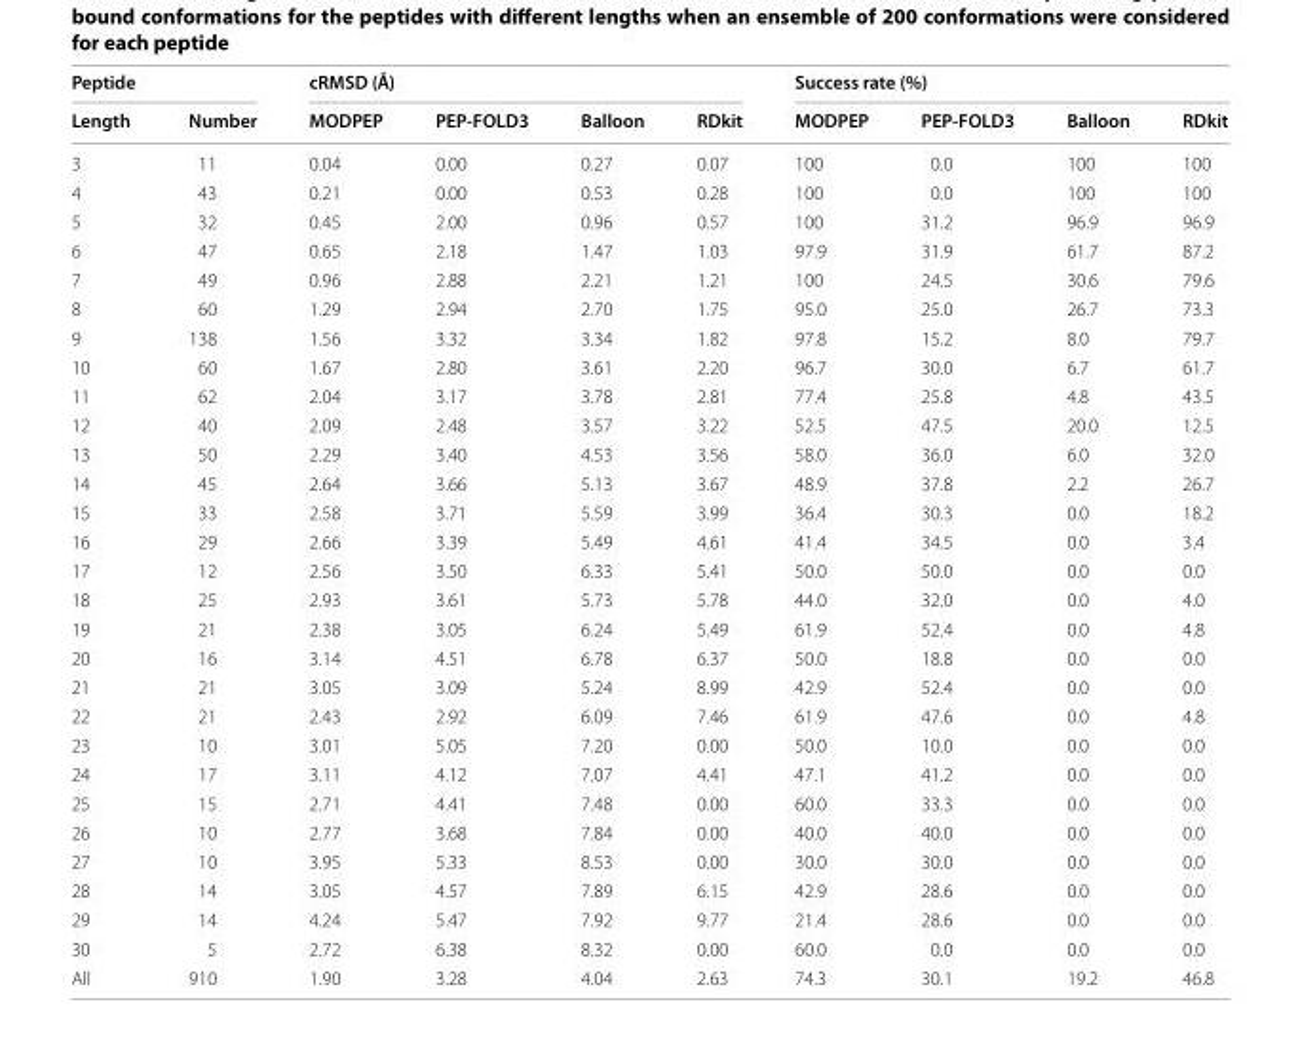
<table><thead><tr><td colspan="2">Peptide</td><td colspan="4">cRMSD (Å)</td><td colspan="4">Success rate (%)</td></tr><tr><td>Length</td><td>Number</td><td>MODPEP</td><td>PEP-FOLD3</td><td>Balloon</td><td>RDkit</td><td>MODPEP</td><td>PEP-FOLD3</td><td>Balloon</td><td>RDkit</td></tr></thead><tbody><tr><td>3</td><td>11</td><td>0.04</td><td>0.00</td><td>0.27</td><td>0.07</td><td>100</td><td>0.0</td><td>100</td><td>100</td></tr><tr><td>4</td><td>43</td><td>0.21</td><td>0.00</td><td>0.53</td><td>0.28</td><td>100</td><td>0.0</td><td>100</td><td>100</td></tr><tr><td>5</td><td>32</td><td>0.45</td><td>2.00</td><td>0.96</td><td>0.57</td><td>100</td><td>31.2</td><td>96.9</td><td>96.9</td></tr><tr><td>6</td><td>47</td><td>0.65</td><td>2.18</td><td>1.47</td><td>1.03</td><td>97.9</td><td>31.9</td><td>61.7</td><td>87.2</td></tr><tr><td>7</td><td>49</td><td>0.96</td><td>2.88</td><td>2.21</td><td>1.21</td><td>100</td><td>24.5</td><td>30.6</td><td>79.6</td></tr><tr><td>8</td><td>60</td><td>1.29</td><td>2.94</td><td>2.70</td><td>1.75</td><td>95.0</td><td>25.0</td><td>26.7</td><td>73.3</td></tr><tr><td>9</td><td>138</td><td>1.56</td><td>3.32</td><td>3.34</td><td>1.82</td><td>97.8</td><td>15.2</td><td>8.0</td><td>79.7</td></tr><tr><td>10</td><td>60</td><td>1.67</td><td>2.80</td><td>3.61</td><td>2.20</td><td>96.7</td><td>30.0</td><td>6.7</td><td>61.7</td></tr><tr><td>11</td><td>62</td><td>2.04</td><td>3.17</td><td>3.78</td><td>2.81</td><td>77.4</td><td>25.8</td><td>4.8</td><td>43.5</td></tr><tr><td>12</td><td>40</td><td>2.09</td><td>2.48</td><td>3.57</td><td>3.22</td><td>52.5</td><td>47.5</td><td>20.0</td><td>12.5</td></tr><tr><td>13</td><td>50</td><td>2.29</td><td>3.40</td><td>4.53</td><td>3.56</td><td>58.0</td><td>36.0</td><td>6.0</td><td>32.0</td></tr><tr><td>14</td><td>45</td><td>2.64</td><td>3.66</td><td>5.13</td><td>3.67</td><td>48.9</td><td>37.8</td><td>2.2</td><td>26.7</td></tr><tr><td>15</td><td>33</td><td>2.58</td><td>3.71</td><td>5.59</td><td>3.99</td><td>36.4</td><td>30.3</td><td>0.0</td><td>18.2</td></tr><tr><td>16</td><td>29</td><td>2.66</td><td>3.39</td><td>5.49</td><td>4.61</td><td>41.4</td><td>34.5</td><td>0.0</td><td>3.4</td></tr><tr><td>17</td><td>12</td><td>2.56</td><td>3.50</td><td>6.33</td><td>5.41</td><td>50.0</td><td>50.0</td><td>0.0</td><td>0.0</td></tr><tr><td>18</td><td>25</td><td>2.93</td><td>3.61</td><td>5.73</td><td>5.78</td><td>44.0</td><td>32.0</td><td>0.0</td><td>4.0</td></tr><tr><td>19</td><td>21</td><td>2.38</td><td>3.05</td><td>6.24</td><td>5.49</td><td>61.9</td><td>52.4</td><td>0.0</td><td>4.8</td></tr><tr><td>20</td><td>16</td><td>3.14</td><td>4.51</td><td>6.78</td><td>6.37</td><td>50.0</td><td>18.8</td><td>0.0</td><td>0.0</td></tr><tr><td>21</td><td>21</td><td>3.05</td><td>3.09</td><td>5.24</td><td>8.99</td><td>42.9</td><td>52.4</td><td>0.0</td><td>0.0</td></tr><tr><td>22</td><td>21</td><td>2.43</td><td>2.92</td><td>6.09</td><td>7.46</td><td>61.9</td><td>47.6</td><td>0.0</td><td>4.8</td></tr><tr><td>23</td><td>10</td><td>3.01</td><td>5.05</td><td>7.20</td><td>0.00</td><td>50.0</td><td>10.0</td><td>0.0</td><td>0.0</td></tr><tr><td>24</td><td>17</td><td>3.11</td><td>4.12</td><td>7.07</td><td>4.41</td><td>47.1</td><td>41.2</td><td>0.0</td><td>0.0</td></tr><tr><td>25</td><td>15</td><td>2.71</td><td>4.41</td><td>7.48</td><td>0.00</td><td>60.0</td><td>33.3</td><td>0.0</td><td>0.0</td></tr><tr><td>26</td><td>10</td><td>2.77</td><td>3.68</td><td>7.84</td><td>0.00</td><td>40.0</td><td>40.0</td><td>0.0</td><td>0.0</td></tr><tr><td>27</td><td>10</td><td>3.95</td><td>5.33</td><td>8.53</td><td>0.00</td><td>30.0</td><td>30.0</td><td>0.0</td><td>0.0</td></tr><tr><td>28</td><td>14</td><td>3.05</td><td>4.57</td><td>7.89</td><td>6.15</td><td>42.9</td><td>28.6</td><td>0.0</td><td>0.0</td></tr><tr><td>29</td><td>14</td><td>4.24</td><td>5.47</td><td>7.92</td><td>9.77</td><td>21.4</td><td>28.6</td><td>0.0</td><td>0.0</td></tr><tr><td>30</td><td>5</td><td>2.72</td><td>6.38</td><td>8.32</td><td>0.00</td><td>60.0</td><td>0.0</td><td>0.0</td><td>0.0</td></tr><tr><td>All</td><td>910</td><td>1.90</td><td>3.28</td><td>4.04</td><td>2.63</td><td>74.3</td><td>30.1</td><td>19.2</td><td>46.8</td></tr></tbody></table>